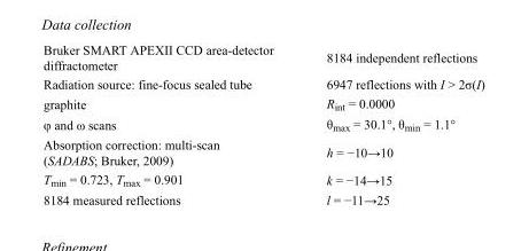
<table><tbody><tr><td>Bruker SMART APEXII CCD area-detector diffractometer</td><td>8184 independent reflections</td></tr><tr><td>Radiation source: fine-focus sealed tube</td><td>6947 reflections with I &gt; 2σ(I)</td></tr><tr><td>graphite</td><td>R<sub>int</sub> = 0.0000</td></tr><tr><td>φ and ω scans</td><td>θ<sub>max</sub> = 30.1°, θ<sub>min</sub> = 1.1°</td></tr><tr><td>Absorption correction: multi-scan (SADABS; Bruker, 2009)</td><td>h = −10→10</td></tr><tr><td>T<sub>min</sub> = 0.723, T<sub>max</sub> = 0.901</td><td>k = −14→15</td></tr><tr><td>8184 measured reflections</td><td>l = −11→25</td></tr></tbody></table>